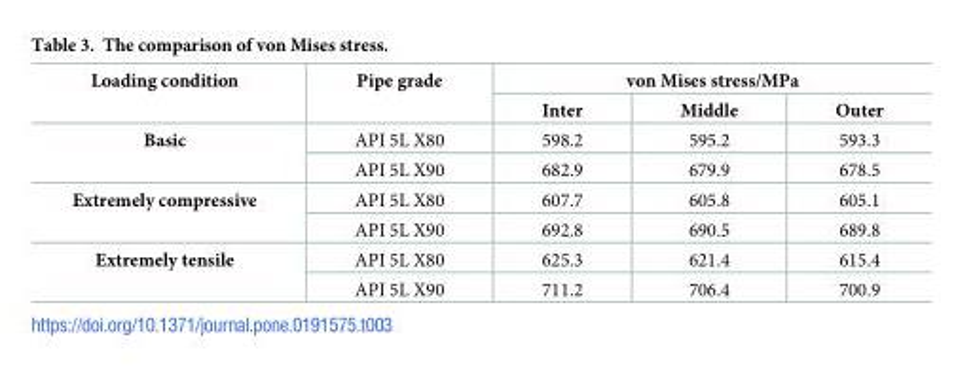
<table><thead><tr><td rowspan="2">Loading condition</td><td rowspan="2">Pipe grade</td><td colspan="3">von Mises stress/MPa</td></tr><tr><td>Inter</td><td>Middle</td><td>Outer</td></tr></thead><tbody><tr><td rowspan="2">Basic</td><td>API 5L X80</td><td>598.2</td><td>595.2</td><td>593.3</td></tr><tr><td>API 5L X90</td><td>682.9</td><td>679.9</td><td>678.5</td></tr><tr><td rowspan="2">Extremely compressive</td><td>API 5L X80</td><td>607.7</td><td>605.8</td><td>605.1</td></tr><tr><td>API 5L X90</td><td>692.8</td><td>690.5</td><td>689.8</td></tr><tr><td rowspan="2">Extremely tensile</td><td>API 5L X80</td><td>625.3</td><td>621.4</td><td>615.4</td></tr><tr><td>API 5L X90</td><td>711.2</td><td>706.4</td><td>700.9</td></tr></tbody></table>